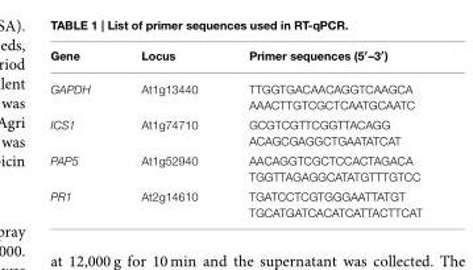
<table><thead><tr><td>Gene</td><td>Locus</td><td>Primer sequences (5′–3′)</td></tr></thead><tbody><tr><td>GAPDH</td><td>At1g13440</td><td>TTGGTGACAACAGGTCAAGCA AAACTTGTCGCTCAATGCAATC</td></tr><tr><td>ICS1</td><td>At1g74710</td><td>GCGTCGTTCGGTTACAGG ACAGCGAGGCTGAATATCAT</td></tr><tr><td>PAP5</td><td>At1g52940</td><td>AACAGGTCGCTCCACTAGACA TGGTTAGAGGCATATGTTTGTCC</td></tr><tr><td>PR1</td><td>At2g14610</td><td>TGATCCTCGTGGGAATTATGT TGCATGATCACATCATTACTTCAT</td></tr></tbody></table>